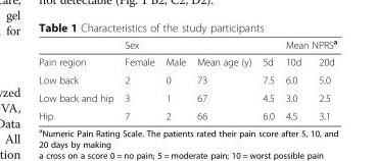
<table><thead><tr><td rowspan="2">Pain region</td><td colspan="2">Sex</td><td rowspan="2">Mean age (y)</td><td rowspan="2">5d</td><td colspan="2">Mean NPRS<sup>a</sup></td></tr><tr><td>Female</td><td>Male</td><td>10d</td><td>20d</td></tr></thead><tbody><tr><td>Low back</td><td>2</td><td>0</td><td>73</td><td>7.5</td><td>6.0</td><td>5.0</td></tr><tr><td>Low back and hip</td><td>3</td><td>1</td><td>67</td><td>4.5</td><td>3.0</td><td>2.5</td></tr><tr><td>Hip</td><td>7</td><td>2</td><td>66</td><td>6.0</td><td>4.5</td><td>3.1</td></tr></tbody></table>